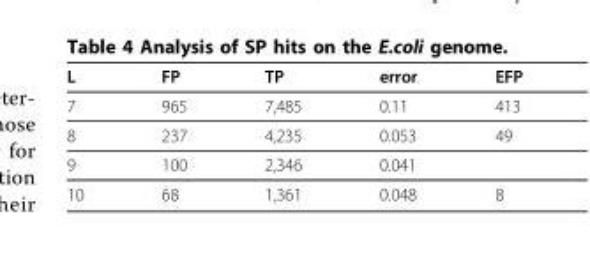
<table><thead><tr><td>L</td><td>FP</td><td>TP</td><td>error</td><td>EFP</td></tr></thead><tbody><tr><td>7</td><td>965</td><td>7,485</td><td>0.11</td><td>413</td></tr><tr><td>8</td><td>237</td><td>4,235</td><td>0.053</td><td>49</td></tr><tr><td>9</td><td>100</td><td>2,346</td><td>0.041</td><td></td></tr><tr><td>10</td><td>68</td><td>1,361</td><td>0.048</td><td>8</td></tr></tbody></table>